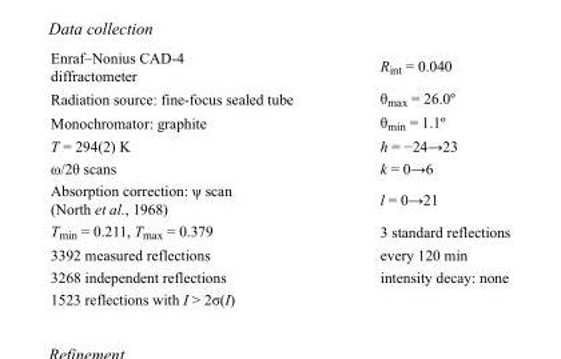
<table><tbody><tr><td>Enraf–Nonius CAD-4 diffractometer</td><td>R<sub>int</sub> = 0.040</td></tr><tr><td>Radiation source: fine-focus sealed tube</td><td>θ<sub>max</sub> = 26.0º</td></tr><tr><td>Monochromator: graphite</td><td>θ<sub>min</sub> = 1.1º</td></tr><tr><td>T = 294(2) K</td><td>h = −24→23</td></tr><tr><td>ω/2θ scans</td><td>k = 0→6</td></tr><tr><td>Absorption correction: ψ scan (North et al., 1968)</td><td>l = 0→21</td></tr><tr><td>T<sub>min</sub> = 0.211, T<sub>max</sub> = 0.379</td><td>3 standard reflections</td></tr><tr><td>3392 measured reflections</td><td>every 120 min</td></tr><tr><td>3268 independent reflections</td><td>intensity decay: none</td></tr><tr><td>1523 reflections with I &gt; 2σ(I)</td><td></td></tr></tbody></table>